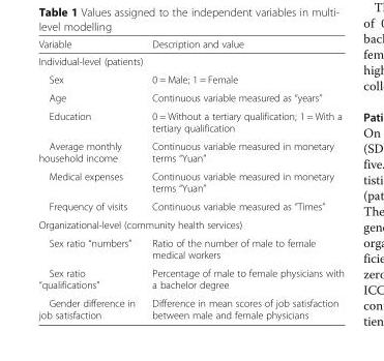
<table><thead><tr><td>Variable</td><td>Description and value</td></tr></thead><tbody><tr><td colspan="2">Individual-level (patients)</td></tr><tr><td>Sex</td><td>0 = Male; 1 = Female</td></tr><tr><td>Age</td><td>Continuous variable measured as “years”</td></tr><tr><td>Education</td><td>0 = Without a tertiary qualification; 1 = With a tertiary qualification</td></tr><tr><td>Average monthly household income</td><td>Continuous variable measured in monetary terms “Yuan”</td></tr><tr><td>Medical expenses</td><td>Continuous variable measured in monetary terms “Yuan”</td></tr><tr><td>Frequency of visits</td><td>Continuous variable measured as “Times”</td></tr><tr><td colspan="2">Organizational-level (community health services)</td></tr><tr><td>Sex ratio “numbers”</td><td>Ratio of the number of male to female medical workers</td></tr><tr><td>Sex ratio “qualifications”</td><td>Percentage of male to female physicians with a bachelor degree</td></tr><tr><td>Gender difference in job satisfaction</td><td>Difference in mean scores of job satisfaction between male and female physicians</td></tr></tbody></table>